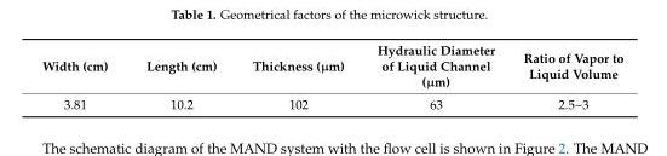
<table><thead><tr><td>Width (cm)</td><td>Length (cm)</td><td>Thickness (µm)</td><td>Hydraulic Diameter of Liquid Channel (µm)</td><td>Ratio of Vapor to Liquid Volume</td></tr></thead><tbody><tr><td>3.81</td><td>10.2</td><td>102</td><td>63</td><td>2.5~3</td></tr></tbody></table>